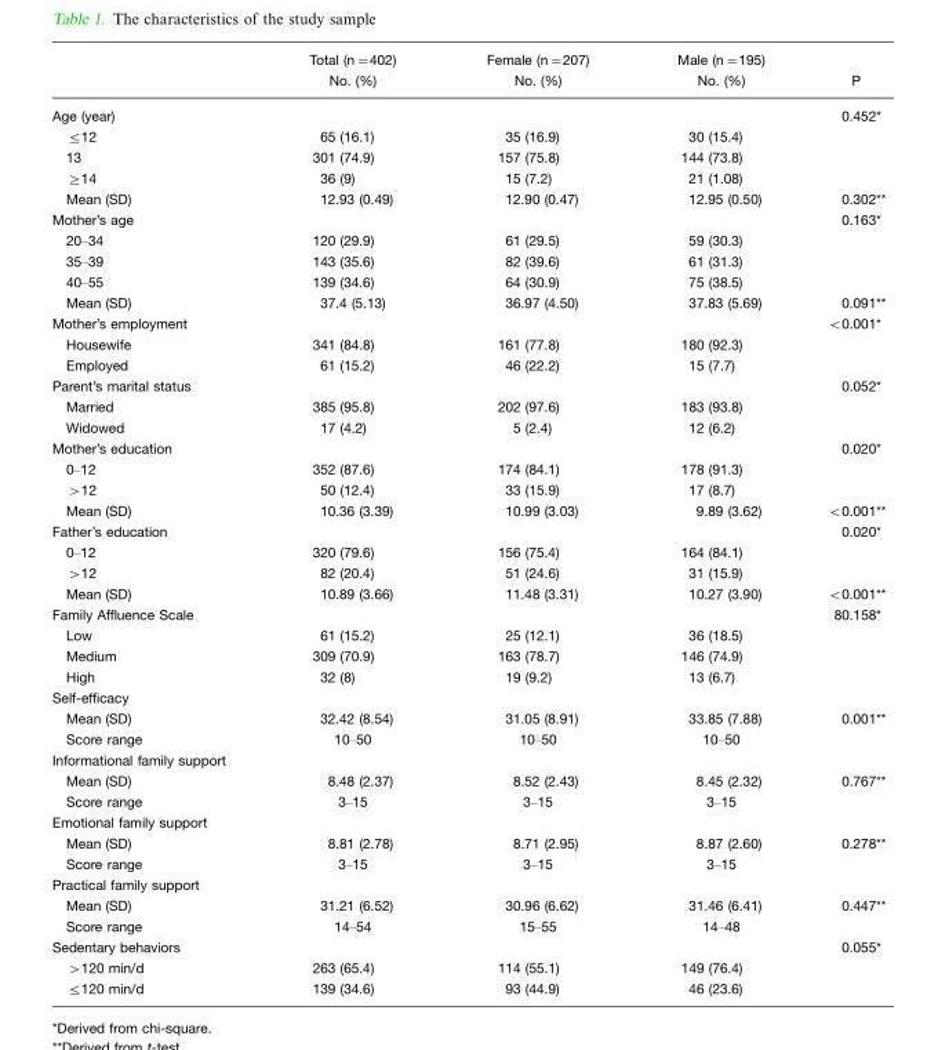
<table><thead><tr><td></td><td>Total (n=402) No. (%)</td><td>Female (n=207) No. (%)</td><td>Male (n=195) No. (%)</td><td>P</td></tr></thead><tbody><tr><td>Age (year)</td><td></td><td></td><td></td><td>0.452*</td></tr><tr><td>≤12</td><td>65 (16.1)</td><td>35 (16.9)</td><td>30 (15.4)</td><td></td></tr><tr><td>13</td><td>301 (74.9)</td><td>157 (75.8)</td><td>144 (73.8)</td><td></td></tr><tr><td>≥14</td><td>36 (9)</td><td>15 (7.2)</td><td>21 (1.08)</td><td></td></tr><tr><td>Mean (SD)</td><td>12.93 (0.49)</td><td>12.90 (0.47)</td><td>12.95 (0.50)</td><td>0.302**</td></tr><tr><td>Mother’s age</td><td></td><td></td><td></td><td>0.163*</td></tr><tr><td>20–34</td><td>120 (29.9)</td><td>61 (29.5)</td><td>59 (30.3)</td><td></td></tr><tr><td>35–39</td><td>143 (35.6)</td><td>82 (39.6)</td><td>61 (31.3)</td><td></td></tr><tr><td>40–55</td><td>139 (34.6)</td><td>64 (30.9)</td><td>75 (38.5)</td><td></td></tr><tr><td>Mean (SD)</td><td>37.4 (5.13)</td><td>36.97 (4.50)</td><td>37.83 (5.69)</td><td>0.091**</td></tr><tr><td>Mother’s employment</td><td></td><td></td><td></td><td>&lt;0.001*</td></tr><tr><td>Housewife</td><td>341 (84.8)</td><td>161 (77.8)</td><td>180 (92.3)</td><td></td></tr><tr><td>Employed</td><td>61 (15.2)</td><td>46 (22.2)</td><td>15 (7.7)</td><td></td></tr><tr><td>Parent’s marital status</td><td></td><td></td><td></td><td>0.052*</td></tr><tr><td>Married</td><td>385 (95.8)</td><td>202 (97.6)</td><td>183 (93.8)</td><td></td></tr><tr><td>Widowed</td><td>17 (4.2)</td><td>5 (2.4)</td><td>12 (6.2)</td><td></td></tr><tr><td>Mother’s education</td><td></td><td></td><td></td><td>0.020*</td></tr><tr><td>0–12</td><td>352 (87.6)</td><td>174 (84.1)</td><td>178 (91.3)</td><td></td></tr><tr><td>&gt;12</td><td>50 (12.4)</td><td>33 (15.9)</td><td>17 (8.7)</td><td></td></tr><tr><td>Mean (SD)</td><td>10.36 (3.39)</td><td>10.99 (3.03)</td><td>9.89 (3.62)</td><td>&lt;0.001**</td></tr><tr><td>Father’s education</td><td></td><td></td><td></td><td>0.020*</td></tr><tr><td>0–12</td><td>320 (79.6)</td><td>156 (75.4)</td><td>164 (84.1)</td><td></td></tr><tr><td>&gt;12</td><td>82 (20.4)</td><td>51 (24.6)</td><td>31 (15.9)</td><td></td></tr><tr><td>Mean (SD)</td><td>10.89 (3.66)</td><td>11.48 (3.31)</td><td>10.27 (3.90)</td><td>&lt;0.001**</td></tr><tr><td>Family Affluence Scale</td><td></td><td></td><td></td><td>80.158*</td></tr><tr><td>Low</td><td>61 (15.2)</td><td>25 (12.1)</td><td>36 (18.5)</td><td></td></tr><tr><td>Medium</td><td>309 (70.9)</td><td>163 (78.7)</td><td>146 (74.9)</td><td></td></tr><tr><td>High</td><td>32 (8)</td><td>19 (9.2)</td><td>13 (6.7)</td><td></td></tr><tr><td colspan="5">Self-efficacy</td></tr><tr><td>Mean (SD)</td><td>32.42 (8.54)</td><td>31.05 (8.91)</td><td>33.85 (7.88)</td><td>0.001**</td></tr><tr><td>Score range</td><td>10–50</td><td>10–50</td><td>10–50</td><td></td></tr><tr><td colspan="5">Informational family support</td></tr><tr><td>Mean (SD)</td><td>8.48 (2.37)</td><td>8.52 (2.43)</td><td>8.45 (2.32)</td><td>0.767**</td></tr><tr><td>Score range</td><td>3–15</td><td>3–15</td><td>3–15</td><td></td></tr><tr><td colspan="5">Emotional family support</td></tr><tr><td>Mean (SD)</td><td>8.81 (2.78)</td><td>8.71 (2.95)</td><td>8.87 (2.60)</td><td>0.278**</td></tr><tr><td>Score range</td><td>3–15</td><td>3–15</td><td>3–15</td><td></td></tr><tr><td colspan="5">Practical family support</td></tr><tr><td>Mean (SD)</td><td>31.21 (6.52)</td><td>30.96 (6.62)</td><td>31.46 (6.41)</td><td>0.447**</td></tr><tr><td>Score range</td><td>14–54</td><td>15–55</td><td>14–48</td><td></td></tr><tr><td>Sedentary behaviors</td><td></td><td></td><td></td><td>0.055*</td></tr><tr><td>&gt;120 min/d</td><td>263 (65.4)</td><td>114 (55.1)</td><td>149 (76.4)</td><td></td></tr><tr><td>≤120 min/d</td><td>139 (34.6)</td><td>93 (44.9)</td><td>46 (23.6)</td><td></td></tr></tbody></table>